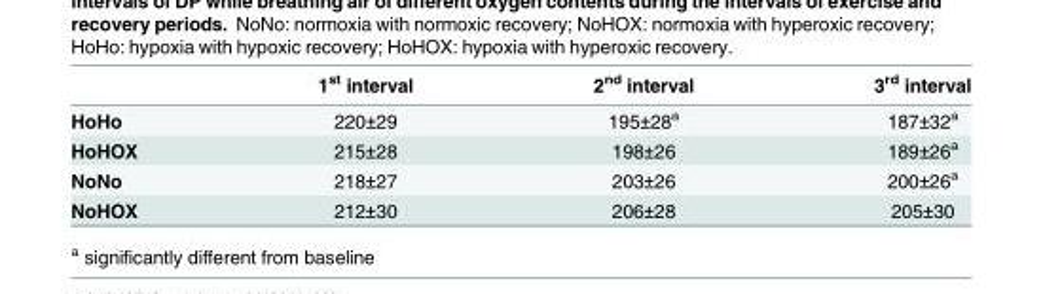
<table><thead><tr><td></td><td>1<sup>st</sup> interval</td><td>2<sup>nd</sup> interval</td><td>3<sup>rd</sup> interval</td></tr></thead><tbody><tr><td>HoHo</td><td>220±29</td><td>195±28<sup>a</sup></td><td>187±32<sup>a</sup></td></tr><tr><td>HoHOX</td><td>215±28</td><td>198±26</td><td>189±26<sup>a</sup></td></tr><tr><td>NoNo</td><td>218±27</td><td>203±26</td><td>200±26<sup>a</sup></td></tr><tr><td>NoHOX</td><td>212±30</td><td>206±28</td><td>205±30</td></tr></tbody></table>